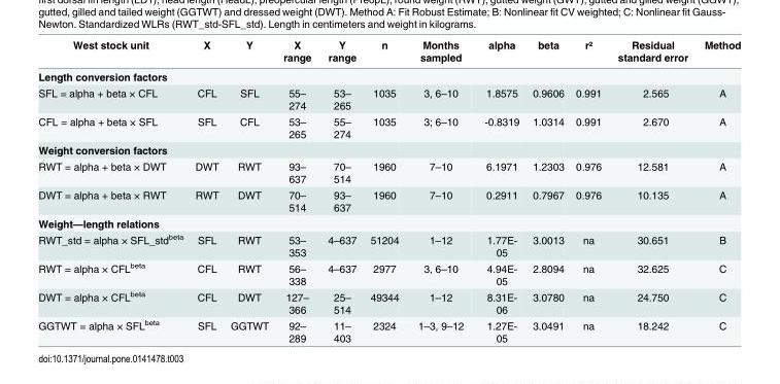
<table><thead><tr><td>West stock unit</td><td>X</td><td>Y</td><td>X range</td><td>Y range</td><td>n</td><td>Months sampled</td><td>alpha</td><td>beta</td><td>r²</td><td>Residual standard error</td><td>Method</td></tr></thead><tbody><tr><td colspan="12">Length conversion factors</td></tr><tr><td>SFL = alpha + beta × CFL</td><td>CFL</td><td>SFL</td><td>55– 274</td><td>53– 265</td><td>1035</td><td>3, 6–10</td><td>1.8575</td><td>0.9606</td><td>0.991</td><td>2.565</td><td>A</td></tr><tr><td>CFL = alpha + beta × SFL</td><td>SFL</td><td>CFL</td><td>53– 265</td><td>55– 274</td><td>1035</td><td>3; 6–10</td><td>-0.8319</td><td>1.0314</td><td>0.991</td><td>2.670</td><td>A</td></tr><tr><td colspan="12">Weight conversion factors</td></tr><tr><td>RWT = alpha + beta × DWT</td><td>DWT</td><td>RWT</td><td>93– 637</td><td>70– 514</td><td>1960</td><td>7–10</td><td>6.1971</td><td>1.2303</td><td>0.976</td><td>12.581</td><td>A</td></tr><tr><td>DWT = alpha + beta × RWT</td><td>RWT</td><td>DWT</td><td>70– 514</td><td>93– 637</td><td>1960</td><td>7–10</td><td>0.2911</td><td>0.7967</td><td>0.976</td><td>10.135</td><td>A</td></tr><tr><td colspan="12">Weight—length relations</td></tr><tr><td>RWT_std = alpha × SFL_std<sup>beta</sup></td><td>SFL</td><td>RWT</td><td>53– 353</td><td>4–637</td><td>51204</td><td>1–12</td><td>1.77E- 05</td><td>3.0013</td><td>na</td><td>30.651</td><td>B</td></tr><tr><td>RWT = alpha × CFL<sup>beta</sup></td><td>CFL</td><td>RWT</td><td>56– 338</td><td>4–637</td><td>2977</td><td>3, 6–10</td><td>4.94E- 05</td><td>2.8094</td><td>na</td><td>32.625</td><td>C</td></tr><tr><td>DWT = alpha × CFL<sup>beta</sup></td><td>CFL</td><td>DWT</td><td>127– 366</td><td>25– 514</td><td>49344</td><td>1–12</td><td>8.31E- 06</td><td>3.0780</td><td>na</td><td>24.750</td><td>C</td></tr><tr><td>GGTWT = alpha × SFL<sup>beta</sup></td><td>SFL</td><td>GGTWT</td><td>92– 289</td><td>11– 403</td><td>2324</td><td>1–3, 9–12</td><td>1.27E- 05</td><td>3.0491</td><td>na</td><td>18.242</td><td>C</td></tr></tbody></table>